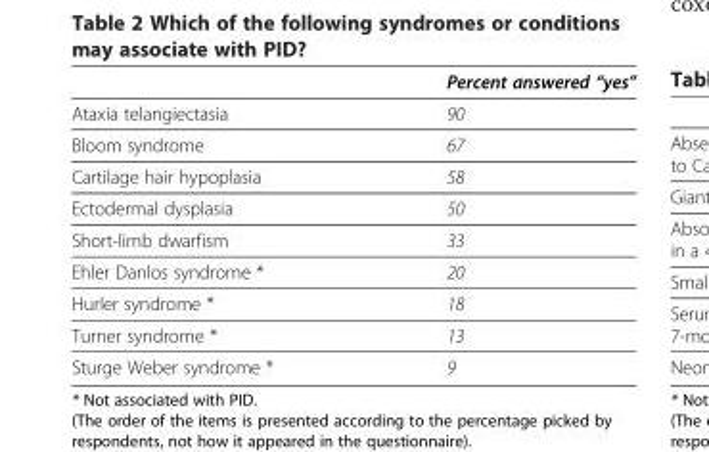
<table><thead><tr><td></td><td>Percent answered “yes”</td></tr></thead><tbody><tr><td>Ataxia telangiectasia</td><td>90</td></tr><tr><td>Bloom syndrome</td><td>67</td></tr><tr><td>Cartilage hair hypoplasia</td><td>58</td></tr><tr><td>Ectodermal dysplasia</td><td>50</td></tr><tr><td>Short-limb dwarfism</td><td>33</td></tr><tr><td>Ehler Danlos syndrome *</td><td>20</td></tr><tr><td>Hurler syndrome *</td><td>18</td></tr><tr><td>Turner syndrome *</td><td>13</td></tr><tr><td>Sturge Weber syndrome *</td><td>9</td></tr></tbody></table>